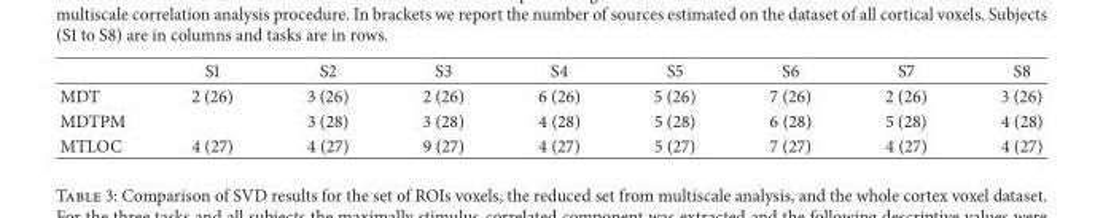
<table><thead><tr><td></td><td>S1</td><td>S2</td><td>S3</td><td>S4</td><td>S5</td><td>S6</td><td>S7</td><td>S8</td></tr></thead><tbody><tr><td>MDT</td><td>2 (26)</td><td>3 (26)</td><td>2 (26)</td><td>6 (26)</td><td>5 (26)</td><td>7 (26)</td><td>2 (26)</td><td>3 (26)</td></tr><tr><td>MDTPM</td><td></td><td>3 (28)</td><td>3 (28)</td><td>4 (28)</td><td>5 (28)</td><td>6 (28)</td><td>5 (28)</td><td>4 (28)</td></tr><tr><td>MTLOC</td><td>4 (27)</td><td>4 (27)</td><td>9 (27)</td><td>4 (27)</td><td>5 (27)</td><td>7 (27)</td><td>4 (27)</td><td>4 (27)</td></tr></tbody></table>